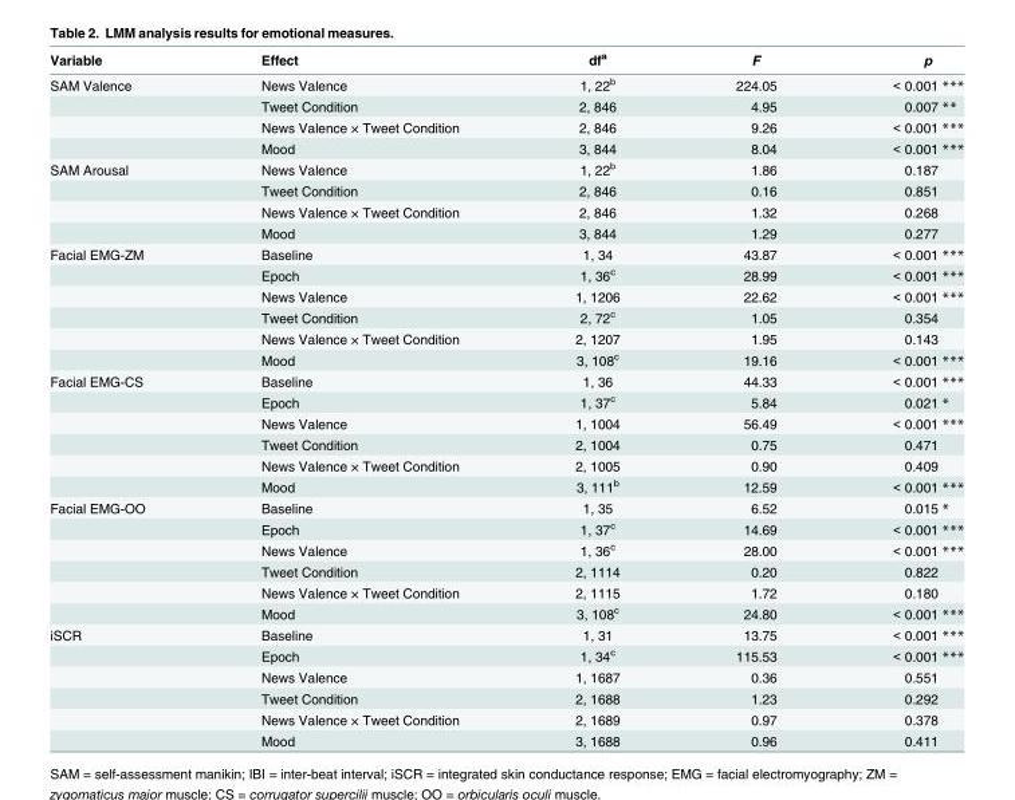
<table><thead><tr><td>Variable</td><td>Effect</td><td>df<sup>a</sup></td><td>F</td><td>p</td></tr></thead><tbody><tr><td rowspan="4">SAM Valence</td><td>News Valence</td><td>1, 22<sup>b</sup></td><td>224.05</td><td>&lt; 0.001 ***</td></tr><tr><td>Tweet Condition</td><td>2, 846</td><td>4.95</td><td>0.007 **</td></tr><tr><td>News Valence × Tweet Condition</td><td>2, 846</td><td>9.26</td><td>&lt; 0.001 ***</td></tr><tr><td>Mood</td><td>3, 844</td><td>8.04</td><td>&lt; 0.001 ***</td></tr><tr><td rowspan="4">SAM Arousal</td><td>News Valence</td><td>1, 22<sup>b</sup></td><td>1.86</td><td>0.187</td></tr><tr><td>Tweet Condition</td><td>2, 846</td><td>0.16</td><td>0.851</td></tr><tr><td>News Valence × Tweet Condition</td><td>2, 846</td><td>1.32</td><td>0.268</td></tr><tr><td>Mood</td><td>3, 844</td><td>1.29</td><td>0.277</td></tr><tr><td rowspan="6">Facial EMG-ZM</td><td>Baseline</td><td>1, 34</td><td>43.87</td><td>&lt; 0.001 ***</td></tr><tr><td>Epoch</td><td>1, 36<sup>c</sup></td><td>28.99</td><td>&lt; 0.001 ***</td></tr><tr><td>News Valence</td><td>1, 1206</td><td>22.62</td><td>&lt; 0.001 ***</td></tr><tr><td>Tweet Condition</td><td>2, 72<sup>c</sup></td><td>1.05</td><td>0.354</td></tr><tr><td>News Valence × Tweet Condition</td><td>2, 1207</td><td>1.95</td><td>0.143</td></tr><tr><td>Mood</td><td>3, 108<sup>c</sup></td><td>19.16</td><td>&lt; 0.001 ***</td></tr><tr><td rowspan="6">Facial EMG-CS</td><td>Baseline</td><td>1, 36</td><td>44.33</td><td>&lt; 0.001 ***</td></tr><tr><td>Epoch</td><td>1, 37<sup>c</sup></td><td>5.84</td><td>0.021 *</td></tr><tr><td>News Valence</td><td>1, 1004</td><td>56.49</td><td>&lt; 0.001 ***</td></tr><tr><td>Tweet Condition</td><td>2, 1004</td><td>0.75</td><td>0.471</td></tr><tr><td>News Valence × Tweet Condition</td><td>2, 1005</td><td>0.90</td><td>0.409</td></tr><tr><td>Mood</td><td>3, 111<sup>b</sup></td><td>12.59</td><td>&lt; 0.001 ***</td></tr><tr><td rowspan="6">Facial EMG-OO</td><td>Baseline</td><td>1, 35</td><td>6.52</td><td>0.015 *</td></tr><tr><td>Epoch</td><td>1, 37<sup>c</sup></td><td>14.69</td><td>&lt; 0.001 ***</td></tr><tr><td>News Valence</td><td>1, 36<sup>c</sup></td><td>28.00</td><td>&lt; 0.001 ***</td></tr><tr><td>Tweet Condition</td><td>2, 1114</td><td>0.20</td><td>0.822</td></tr><tr><td>News Valence × Tweet Condition</td><td>2, 1115</td><td>1.72</td><td>0.180</td></tr><tr><td>Mood</td><td>3, 108<sup>c</sup></td><td>24.80</td><td>&lt; 0.001 ***</td></tr><tr><td rowspan="6">iSCR</td><td>Baseline</td><td>1, 31</td><td>13.75</td><td>&lt; 0.001 ***</td></tr><tr><td>Epoch</td><td>1, 34<sup>c</sup></td><td>115.53</td><td>&lt; 0.001 ***</td></tr><tr><td>News Valence</td><td>1, 1687</td><td>0.36</td><td>0.551</td></tr><tr><td>Tweet Condition</td><td>2, 1688</td><td>1.23</td><td>0.292</td></tr><tr><td>News Valence × Tweet Condition</td><td>2, 1689</td><td>0.97</td><td>0.378</td></tr><tr><td>Mood</td><td>3, 1688</td><td>0.96</td><td>0.411</td></tr></tbody></table>